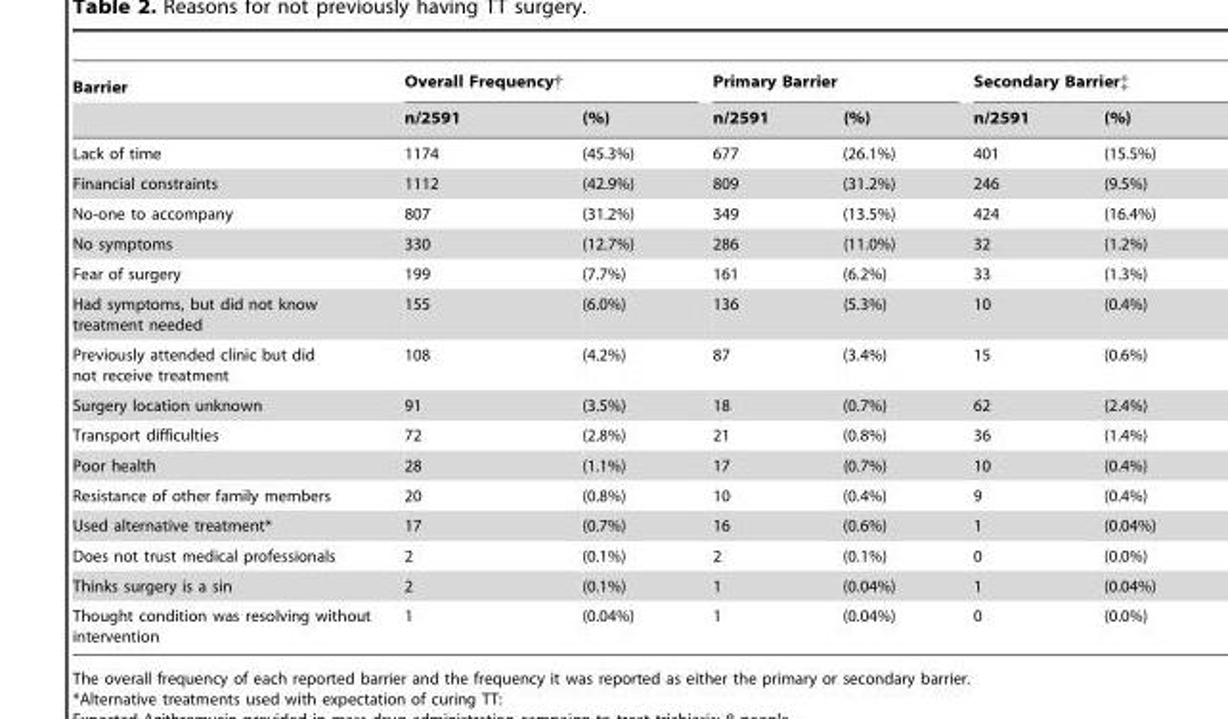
<table><thead><tr><td rowspan="2">Barrier</td><td colspan="2">Overall Frequency†</td><td colspan="2">Primary Barrier</td><td colspan="2">Secondary Barrier‡</td></tr><tr><td>n/2591</td><td>(%)</td><td>n/2591</td><td>(%)</td><td>n/2591</td><td>(%)</td></tr></thead><tbody><tr><td>Lack of time</td><td>1174</td><td>(45.3%)</td><td>677</td><td>(26.1%)</td><td>401</td><td>(15.5%)</td></tr><tr><td>Financial constraints</td><td>1112</td><td>(42.9%)</td><td>809</td><td>(31.2%)</td><td>246</td><td>(9.5%)</td></tr><tr><td>No-one to accompany</td><td>807</td><td>(31.2%)</td><td>349</td><td>(13.5%)</td><td>424</td><td>(16.4%)</td></tr><tr><td>No symptoms</td><td>330</td><td>(12.7%)</td><td>286</td><td>(11.0%)</td><td>32</td><td>(1.2%)</td></tr><tr><td>Fear of surgery</td><td>199</td><td>(7.7%)</td><td>161</td><td>(6.2%)</td><td>33</td><td>(1.3%)</td></tr><tr><td>Had symptoms, but did not know treatment needed</td><td>155</td><td>(6.0%)</td><td>136</td><td>(5.3%)</td><td>10</td><td>(0.4%)</td></tr><tr><td>Previously attended clinic but did not receive treatment</td><td>108</td><td>(4.2%)</td><td>87</td><td>(3.4%)</td><td>15</td><td>(0.6%)</td></tr><tr><td>Surgery location unknown</td><td>91</td><td>(3.5%)</td><td>18</td><td>(0.7%)</td><td>62</td><td>(2.4%)</td></tr><tr><td>Transport difficulties</td><td>72</td><td>(2.8%)</td><td>21</td><td>(0.8%)</td><td>36</td><td>(1.4%)</td></tr><tr><td>Poor health</td><td>28</td><td>(1.1%)</td><td>17</td><td>(0.7%)</td><td>10</td><td>(0.4%)</td></tr><tr><td>Resistance of other family members</td><td>20</td><td>(0.8%)</td><td>10</td><td>(0.4%)</td><td>9</td><td>(0.4%)</td></tr><tr><td>Used alternative treatment*</td><td>17</td><td>(0.7%)</td><td>16</td><td>(0.6%)</td><td>1</td><td>(0.04%)</td></tr><tr><td>Does not trust medical professionals</td><td>2</td><td>(0.1%)</td><td>2</td><td>(0.1%)</td><td>0</td><td>(0.0%)</td></tr><tr><td>Thinks surgery is a sin</td><td>2</td><td>(0.1%)</td><td>1</td><td>(0.04%)</td><td>1</td><td>(0.04%)</td></tr><tr><td>Thought condition was resolving without intervention</td><td>1</td><td>(0.04%)</td><td>1</td><td>(0.04%)</td><td>0</td><td>(0.0%)</td></tr></tbody></table>